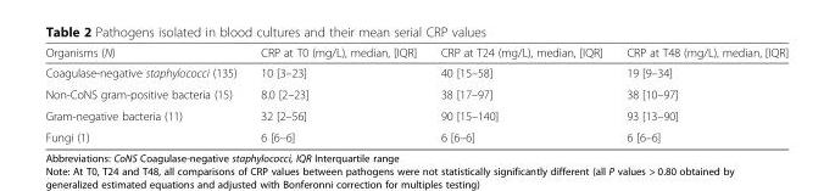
<table><thead><tr><td>Organisms (N)</td><td>CRP at T0 (mg/L), median, [IQR]</td><td>CRP at T24 (mg/L), median, [IQR]</td><td>CRP at T48 (mg/L), median, [IQR]</td></tr></thead><tbody><tr><td>Coagulase-negative staphylococci (135)</td><td>10 [3–23]</td><td>40 [15–58]</td><td>19 [9–34]</td></tr><tr><td>Non-CoNS gram-positive bacteria (15)</td><td>8.0 [2–23]</td><td>38 [17–97]</td><td>38 [10–97]</td></tr><tr><td>Gram-negative bacteria (11)</td><td>32 [2–56]</td><td>90 [15–140]</td><td>93 [13–90]</td></tr><tr><td>Fungi (1)</td><td>6 [6–6]</td><td>6 [6–6]</td><td>6 [6–6]</td></tr></tbody></table>